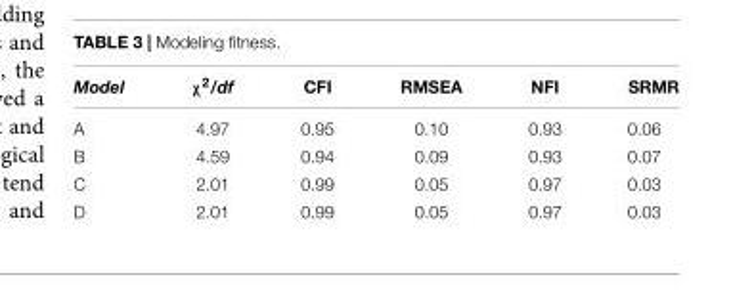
<table><thead><tr><td>Model</td><td>χ<sup>2</sup>/df</td><td>CFI</td><td>RMSEA</td><td>NFI</td><td>SRMR</td></tr></thead><tbody><tr><td>A</td><td>4.97</td><td>0.95</td><td>0.10</td><td>0.93</td><td>0.06</td></tr><tr><td>B</td><td>4.59</td><td>0.94</td><td>0.09</td><td>0.93</td><td>0.07</td></tr><tr><td>C</td><td>2.01</td><td>0.99</td><td>0.05</td><td>0.97</td><td>0.03</td></tr><tr><td>D</td><td>2.01</td><td>0.99</td><td>0.05</td><td>0.97</td><td>0.03</td></tr></tbody></table>